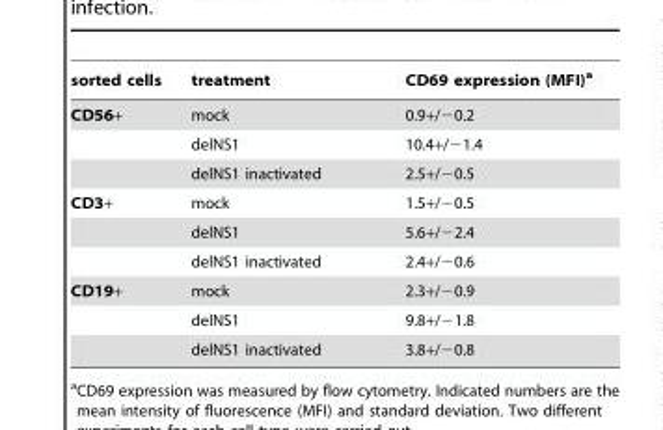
<table><thead><tr><td>sorted cells</td><td>treatment</td><td>CD69 expression (MFI)<sup>a</sup></td></tr></thead><tbody><tr><td rowspan="3">CD56+</td><td>mock</td><td>0.9+/−0.2</td></tr><tr><td>delNS1</td><td>10.4+/−1.4</td></tr><tr><td>delNS1 inactivated</td><td>2.5+/−0.5</td></tr><tr><td rowspan="3">CD3+</td><td>mock</td><td>1.5+/−0.5</td></tr><tr><td>delNS1</td><td>5.6+/−2.4</td></tr><tr><td>delNS1 inactivated</td><td>2.4+/−0.6</td></tr><tr><td rowspan="3">CD19+</td><td>mock</td><td>2.3+/−0.9</td></tr><tr><td>delNS1</td><td>9.8+/−1.8</td></tr><tr><td>delNS1 inactivated</td><td>3.8+/−0.8</td></tr></tbody></table>